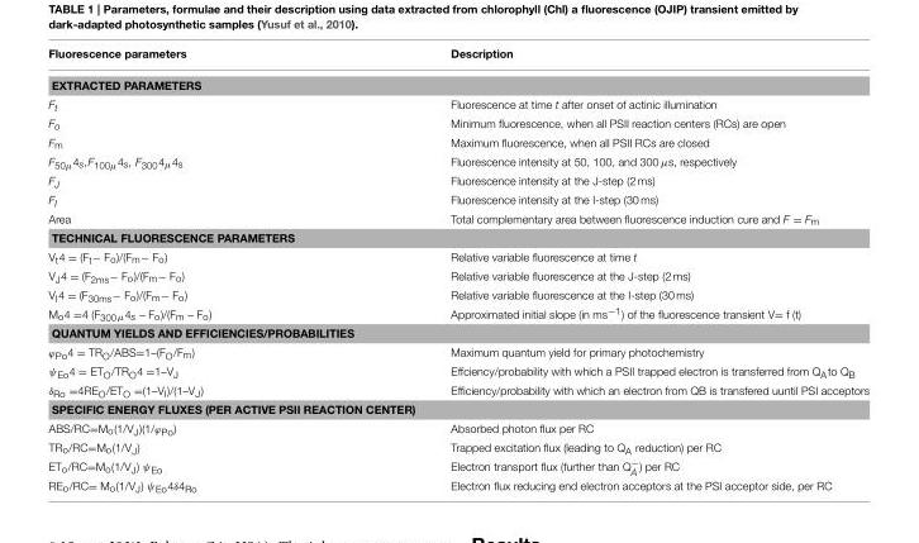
<table><thead><tr><td>Fluorescence parameters</td><td>Description</td></tr></thead><tbody><tr><td colspan="2">EXTRACTED PARAMETERS</td></tr><tr><td>F<sub>t</sub></td><td>Fluorescence at time t after onset of actinic illumination</td></tr><tr><td>F<sub>o</sub></td><td>Minimum fluorescence, when all PSII reaction centers (RCs) are open</td></tr><tr><td>F<sub>m</sub></td><td>Maximum fluorescence, when all PSII RCs are closed</td></tr><tr><td>F<sub>50µ</sub>4<sub>s</sub>,F<sub>100µ</sub>4<sub>s</sub>, F<sub>300</sub>4<sub>µ</sub>4<sub>s</sub></td><td>Fluorescence intensity at 50, 100, and 300 µs, respectively</td></tr><tr><td>F<sub>J</sub></td><td>Fluorescence intensity at the J-step (2 ms)</td></tr><tr><td>F<sub>I</sub></td><td>Fluorescence intensity at the I-step (30 ms)</td></tr><tr><td>Area</td><td>Total complementary area between fluorescence induction cure and F = F<sub>m</sub></td></tr><tr><td colspan="2">TECHNICAL FLUORESCENCE PARAMETERS</td></tr><tr><td>V<sub>t</sub>4 = (F<sub>t</sub>− F<sub>o</sub>)/(F<sub>m</sub>− F<sub>o</sub>)</td><td>Relative variable fluorescence at time t</td></tr><tr><td>V<sub>J</sub>4 = (F<sub>2ms</sub>− F<sub>o</sub>)/(F<sub>m</sub>− F<sub>o</sub>)</td><td>Relative variable fluorescence at the J-step (2 ms)</td></tr><tr><td>V<sub>I</sub>4 = (F<sub>30ms</sub>− F<sub>o</sub>)/(F<sub>m</sub>− F<sub>o</sub>)</td><td>Relative variable fluorescence at the I-step (30 ms)</td></tr><tr><td>M<sub>o</sub>4 =4 (F<sub>300µ</sub>4<sub>s</sub> – F<sub>o</sub>)/(F<sub>m</sub> – F<sub>o</sub>)</td><td>Approximated initial slope (in ms<sup>−1</sup>) of the fluorescence transient V= f (t)</td></tr><tr><td colspan="2">QUANTUM YIELDS AND EFFICIENCIES/PROBABILITIES</td></tr><tr><td>ϕ<sub>Po</sub>4 = TR<sub>O</sub>/ABS=1–(F<sub>O</sub>/F<sub>m</sub>)</td><td>Maximum quantum yield for primary photochemistry</td></tr><tr><td>ψ<sub>Eo</sub>4 = ET<sub>O</sub>/TR<sub>O</sub>4 =1–V<sub>J</sub></td><td>Effciency/probability with which a PSII trapped electron is transferred from Q<sub>A</sub>to Q<sub>B</sub></td></tr><tr><td>δ<sub>Ro</sub> =4RE<sub>O</sub>/ET<sub>O</sub> =(1–V<sub>I</sub>)/(1–V<sub>J</sub>)</td><td>Efficiency/probability with which an electron from QB is transfered uuntil PSI acceptors</td></tr><tr><td colspan="2">SPECIFIC ENERGY FLUXES (PER ACTIVE PSII REACTION CENTER)</td></tr><tr><td>ABS/RC=M<sub>o</sub>(1/V<sub>J</sub>)(1/ϕ<sub>Po</sub>)</td><td>Absorbed photon flux per RC</td></tr><tr><td>TR<sub>o</sub>/RC=M<sub>o</sub>(1/V<sub>J</sub>)</td><td>Trapped excitation flux (leading to Q<sub>A</sub> reduction) per RC</td></tr><tr><td>ET<sub>o</sub>/RC=M<sub>o</sub>(1/V<sub>J</sub>) ψ<sub>Eo</sub></td><td>Electron transport flux (further than Q<sup>−</sup> <sub>A</sub> ) per RC</td></tr><tr><td>RE<sub>o</sub>/RC= M<sub>o</sub>(1/V<sub>J</sub>) ψ<sub>Eo</sub>4δ4<sub>Ro</sub></td><td>Electron flux reducing end electron acceptors at the PSI acceptor side, per RC</td></tr></tbody></table>